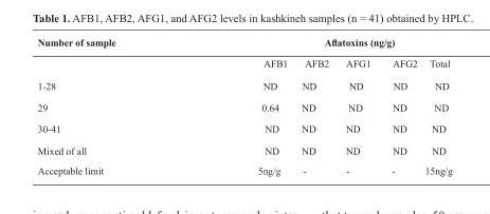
<table><thead><tr><td rowspan="2">Number of sample</td><td colspan="5">Aflatoxins (ng/g)</td></tr><tr><td>AFB1</td><td>AFB2</td><td>AFG1</td><td>AFG2</td><td>Total</td></tr></thead><tbody><tr><td>1-28</td><td>ND</td><td>ND</td><td>ND</td><td>ND</td><td>ND</td></tr><tr><td>29</td><td>0.64</td><td>ND</td><td>ND</td><td>ND</td><td>ND</td></tr><tr><td>30-41</td><td>ND</td><td>ND</td><td>ND</td><td>ND</td><td>ND</td></tr><tr><td>Mixed of all</td><td>ND</td><td>ND</td><td>ND</td><td>ND</td><td>ND</td></tr><tr><td>Acceptable limit</td><td>5ng/g</td><td>-</td><td>-</td><td>-</td><td>15ng/g</td></tr></tbody></table>